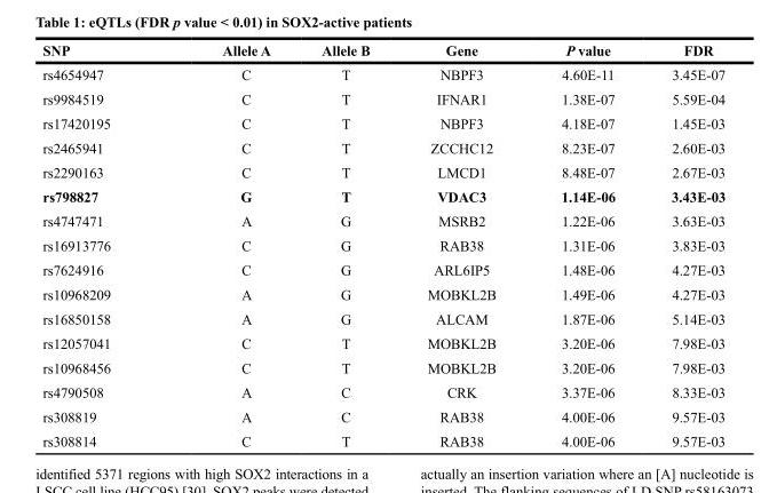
<table><thead><tr><td>SNP</td><td>Allele A</td><td>Allele B</td><td>Gene</td><td>P value</td><td>FDR</td></tr></thead><tbody><tr><td>rs4654947</td><td>C</td><td>T</td><td>NBPF3</td><td>4.60E-11</td><td>3.45E-07</td></tr><tr><td>rs9984519</td><td>C</td><td>T</td><td>IFNAR1</td><td>1.38E-07</td><td>5.59E-04</td></tr><tr><td>rs17420195</td><td>C</td><td>T</td><td>NBPF3</td><td>4.18E-07</td><td>1.45E-03</td></tr><tr><td>rs2465941</td><td>C</td><td>T</td><td>ZCCHC12</td><td>8.23E-07</td><td>2.60E-03</td></tr><tr><td>rs2290163</td><td>C</td><td>T</td><td>LMCD1</td><td>8.48E-07</td><td>2.67E-03</td></tr><tr><td>rs798827</td><td>G</td><td>T</td><td>VDAC3</td><td>1.14E-06</td><td>3.43E-03</td></tr><tr><td>rs4747471</td><td>A</td><td>G</td><td>MSRB2</td><td>1.22E-06</td><td>3.63E-03</td></tr><tr><td>rs16913776</td><td>C</td><td>G</td><td>RAB38</td><td>1.31E-06</td><td>3.83E-03</td></tr><tr><td>rs7624916</td><td>C</td><td>G</td><td>ARL6IP5</td><td>1.48E-06</td><td>4.27E-03</td></tr><tr><td>rs10968209</td><td>A</td><td>G</td><td>MOBKL2B</td><td>1.49E-06</td><td>4.27E-03</td></tr><tr><td>rs16850158</td><td>A</td><td>G</td><td>ALCAM</td><td>1.87E-06</td><td>5.14E-03</td></tr><tr><td>rs12057041</td><td>C</td><td>T</td><td>MOBKL2B</td><td>3.20E-06</td><td>7.98E-03</td></tr><tr><td>rs10968456</td><td>C</td><td>T</td><td>MOBKL2B</td><td>3.20E-06</td><td>7.98E-03</td></tr><tr><td>rs4790508</td><td>A</td><td>C</td><td>CRK</td><td>3.37E-06</td><td>8.33E-03</td></tr><tr><td>rs308819</td><td>A</td><td>C</td><td>RAB38</td><td>4.00E-06</td><td>9.57E-03</td></tr><tr><td>rs308814</td><td>C</td><td>T</td><td>RAB38</td><td>4.00E-06</td><td>9.57E-03</td></tr></tbody></table>